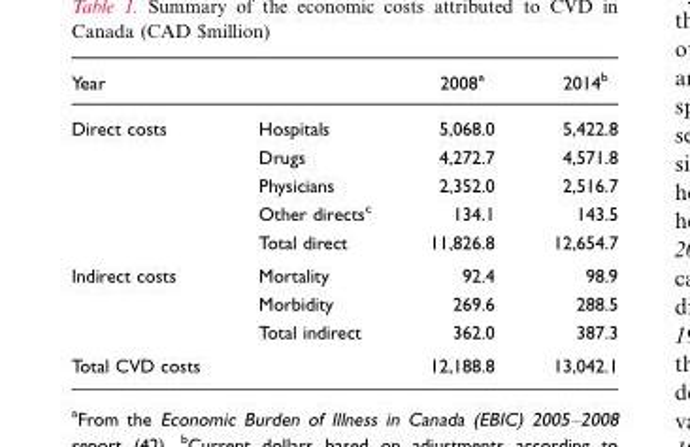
<table><thead><tr><td>Year</td><td></td><td>2008<sup>a</sup></td><td>2014<sup>b</sup></td></tr></thead><tbody><tr><td rowspan="5">Direct costs</td><td>Hospitals</td><td>5,068.0</td><td>5,422.8</td></tr><tr><td>Drugs</td><td>4,272.7</td><td>4,571.8</td></tr><tr><td>Physicians</td><td>2,352.0</td><td>2,516.7</td></tr><tr><td>Other directs<sup>c</sup></td><td>134.1</td><td>143.5</td></tr><tr><td>Total direct</td><td>11,826.8</td><td>12,654.7</td></tr><tr><td rowspan="3">Indirect costs</td><td>Mortality</td><td>92.4</td><td>98.9</td></tr><tr><td>Morbidity</td><td>269.6</td><td>288.5</td></tr><tr><td>Total indirect</td><td>362.0</td><td>387.3</td></tr><tr><td>Total CVD costs</td><td></td><td>12,188.8</td><td>13,042.1</td></tr></tbody></table>